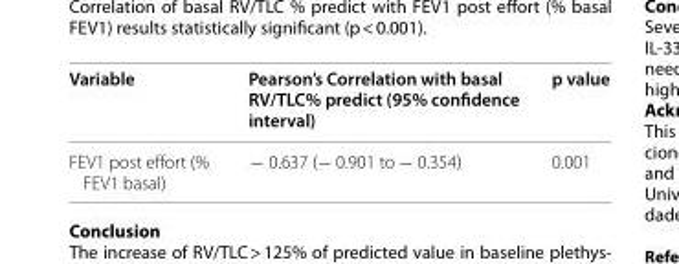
<table><thead><tr><td>Variable</td><td>Pearson’s Correlation with basal RV/TLC% predict (95% confidence interval)</td><td>p value</td></tr></thead><tbody><tr><td>FEV1 post effort (% FEV1 basal)</td><td>− 0.637 (− 0.901 to − 0.354)</td><td>0.001</td></tr></tbody></table>